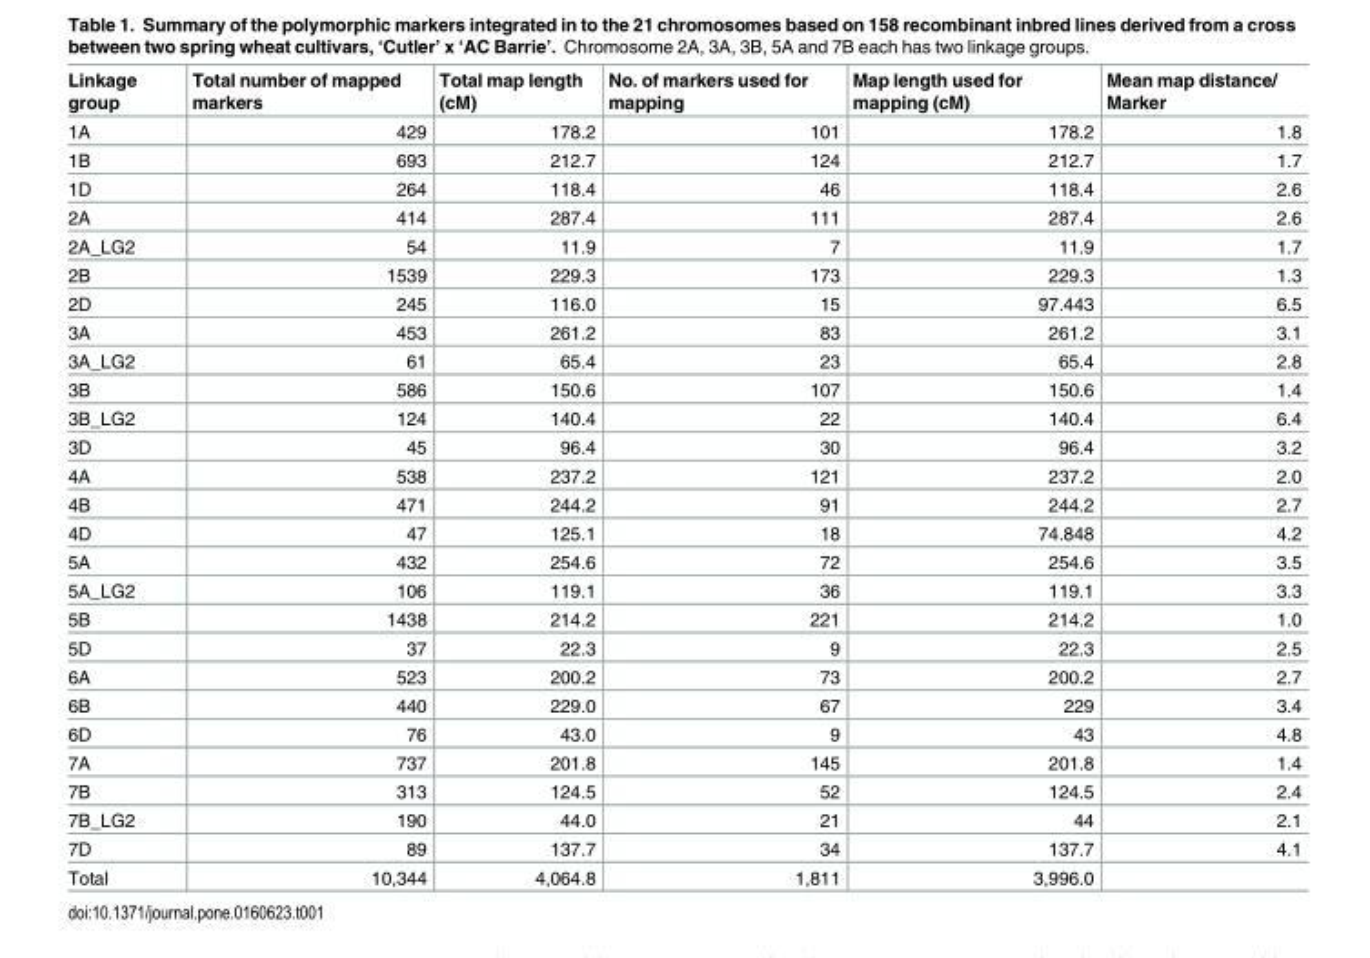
<table><thead><tr><td>Linkage group</td><td>Total number of mapped markers</td><td>Total map length (cM)</td><td>No. of markers used for mapping</td><td>Map length used for mapping (cM)</td><td>Mean map distance/ Marker</td></tr></thead><tbody><tr><td>1A</td><td>429</td><td>178.2</td><td>101</td><td>178.2</td><td>1.8</td></tr><tr><td>1B</td><td>693</td><td>212.7</td><td>124</td><td>212.7</td><td>1.7</td></tr><tr><td>1D</td><td>264</td><td>118.4</td><td>46</td><td>118.4</td><td>2.6</td></tr><tr><td>2A</td><td>414</td><td>287.4</td><td>111</td><td>287.4</td><td>2.6</td></tr><tr><td>2A_LG2</td><td>54</td><td>11.9</td><td>7</td><td>11.9</td><td>1.7</td></tr><tr><td>2B</td><td>1539</td><td>229.3</td><td>173</td><td>229.3</td><td>1.3</td></tr><tr><td>2D</td><td>245</td><td>116.0</td><td>15</td><td>97.443</td><td>6.5</td></tr><tr><td>3A</td><td>453</td><td>261.2</td><td>83</td><td>261.2</td><td>3.1</td></tr><tr><td>3A_LG2</td><td>61</td><td>65.4</td><td>23</td><td>65.4</td><td>2.8</td></tr><tr><td>3B</td><td>586</td><td>150.6</td><td>107</td><td>150.6</td><td>1.4</td></tr><tr><td>3B_LG2</td><td>124</td><td>140.4</td><td>22</td><td>140.4</td><td>6.4</td></tr><tr><td>3D</td><td>45</td><td>96.4</td><td>30</td><td>96.4</td><td>3.2</td></tr><tr><td>4A</td><td>538</td><td>237.2</td><td>121</td><td>237.2</td><td>2.0</td></tr><tr><td>4B</td><td>471</td><td>244.2</td><td>91</td><td>244.2</td><td>2.7</td></tr><tr><td>4D</td><td>47</td><td>125.1</td><td>18</td><td>74.848</td><td>4.2</td></tr><tr><td>5A</td><td>432</td><td>254.6</td><td>72</td><td>254.6</td><td>3.5</td></tr><tr><td>5A_LG2</td><td>106</td><td>119.1</td><td>36</td><td>119.1</td><td>3.3</td></tr><tr><td>5B</td><td>1438</td><td>214.2</td><td>221</td><td>214.2</td><td>1.0</td></tr><tr><td>5D</td><td>37</td><td>22.3</td><td>9</td><td>22.3</td><td>2.5</td></tr><tr><td>6A</td><td>523</td><td>200.2</td><td>73</td><td>200.2</td><td>2.7</td></tr><tr><td>6B</td><td>440</td><td>229.0</td><td>67</td><td>229</td><td>3.4</td></tr><tr><td>6D</td><td>76</td><td>43.0</td><td>9</td><td>43</td><td>4.8</td></tr><tr><td>7A</td><td>737</td><td>201.8</td><td>145</td><td>201.8</td><td>1.4</td></tr><tr><td>7B</td><td>313</td><td>124.5</td><td>52</td><td>124.5</td><td>2.4</td></tr><tr><td>7B_LG2</td><td>190</td><td>44.0</td><td>21</td><td>44</td><td>2.1</td></tr><tr><td>7D</td><td>89</td><td>137.7</td><td>34</td><td>137.7</td><td>4.1</td></tr><tr><td>Total</td><td>10,344</td><td>4,064.8</td><td>1,811</td><td>3,996.0</td><td></td></tr></tbody></table>